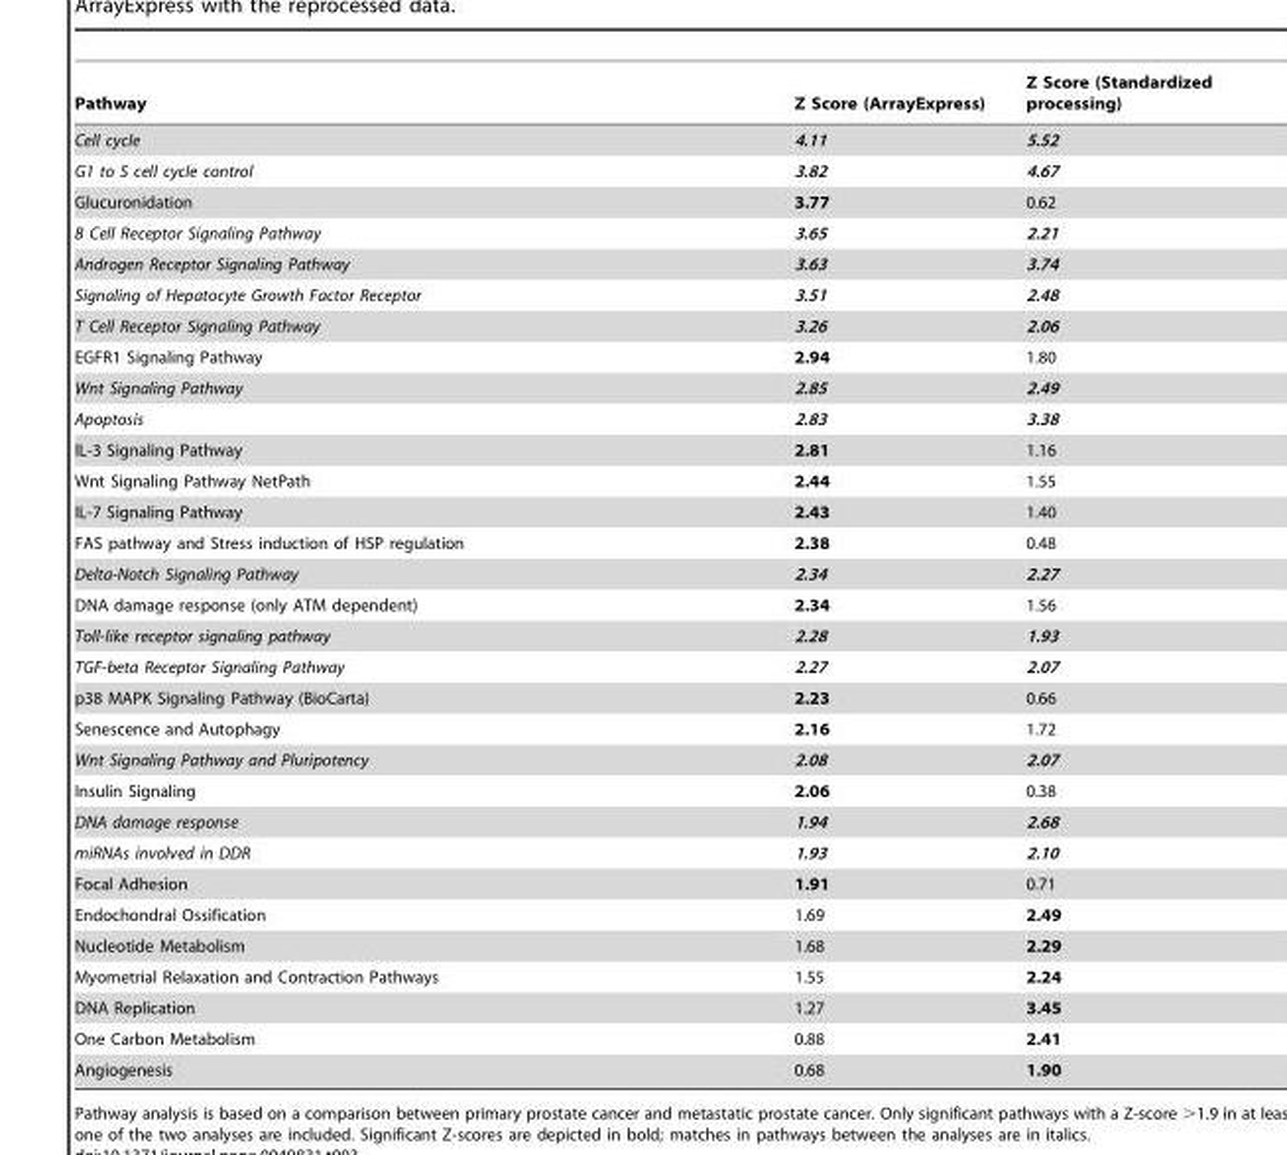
<table><thead><tr><td>Pathway</td><td>Z Score (ArrayExpress)</td><td>Z Score (Standardized processing)</td></tr></thead><tbody><tr><td>Cell cycle</td><td>4.11</td><td>5.52</td></tr><tr><td>G1 to S cell cycle control</td><td>3.82</td><td>4.67</td></tr><tr><td>Glucuronidation</td><td>3.77</td><td>0.62</td></tr><tr><td>B Cell Receptor Signaling Pathway</td><td>3.65</td><td>2.21</td></tr><tr><td>Androgen Receptor Signaling Pathway</td><td>3.63</td><td>3.74</td></tr><tr><td>Signaling of Hepatocyte Growth Factor Receptor</td><td>3.51</td><td>2.48</td></tr><tr><td>T Cell Receptor Signaling Pathway</td><td>3.26</td><td>2.06</td></tr><tr><td>EGFR1 Signaling Pathway</td><td>2.94</td><td>1.80</td></tr><tr><td>Wnt Signaling Pathway</td><td>2.85</td><td>2.49</td></tr><tr><td>Apoptosis</td><td>2.83</td><td>3.38</td></tr><tr><td>IL-3 Signaling Pathway</td><td>2.81</td><td>1.16</td></tr><tr><td>Wnt Signaling Pathway NetPath</td><td>2.44</td><td>1.55</td></tr><tr><td>IL-7 Signaling Pathway</td><td>2.43</td><td>1.40</td></tr><tr><td>FAS pathway and Stress induction of HSP regulation</td><td>2.38</td><td>0.48</td></tr><tr><td>Delta-Notch Signaling Pathway</td><td>2.34</td><td>2.27</td></tr><tr><td>DNA damage response (only ATM dependent)</td><td>2.34</td><td>1.56</td></tr><tr><td>Toll-like receptor signaling pathway</td><td>2.28</td><td>1.93</td></tr><tr><td>TGF-beta Receptor Signaling Pathway</td><td>2.27</td><td>2.07</td></tr><tr><td>p38 MAPK Signaling Pathway (BioCarta)</td><td>2.23</td><td>0.66</td></tr><tr><td>Senescence and Autophagy</td><td>2.16</td><td>1.72</td></tr><tr><td>Wnt Signaling Pathway and Pluripotency</td><td>2.08</td><td>2.07</td></tr><tr><td>Insulin Signaling</td><td>2.06</td><td>0.38</td></tr><tr><td>DNA damage response</td><td>1.94</td><td>2.68</td></tr><tr><td>miRNAs involved in DDR</td><td>1.93</td><td>2.10</td></tr><tr><td>Focal Adhesion</td><td>1.91</td><td>0.71</td></tr><tr><td>Endochondral Ossification</td><td>1.69</td><td>2.49</td></tr><tr><td>Nucleotide Metabolism</td><td>1.68</td><td>2.29</td></tr><tr><td>Myometrial Relaxation and Contraction Pathways</td><td>1.55</td><td>2.24</td></tr><tr><td>DNA Replication</td><td>1.27</td><td>3.45</td></tr><tr><td>One Carbon Metabolism</td><td>0.88</td><td>2.41</td></tr><tr><td>Angiogenesis</td><td>0.68</td><td>1.90</td></tr></tbody></table>